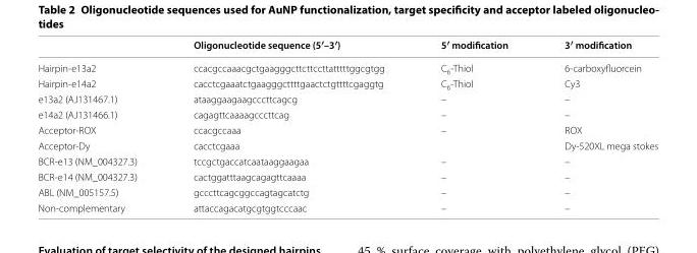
<table><thead><tr><td></td><td>Oligonucleotide sequence (5′–3′)</td><td>5′ modification</td><td>3′ modification</td></tr></thead><tbody><tr><td>Hairpin-e13a2</td><td>ccacgccaaacgctgaagggcttcttccttatttttggcgtgg</td><td>C<sub>6</sub>-Thiol</td><td>6-carboxyfluorcein</td></tr><tr><td>Hairpin-e14a2</td><td>cacctcgaaatctgaagggcttttgaactctgttttcgaggtg</td><td>C<sub>6</sub>-Thiol</td><td>Cy3</td></tr><tr><td>e13a2 (AJ131467.1)</td><td>ataaggaagaagcccttcagcg</td><td>–</td><td>–</td></tr><tr><td>e14a2 (AJ131466.1)</td><td>cagagttcaaaagcccttcag</td><td>–</td><td>–</td></tr><tr><td>Acceptor-ROX</td><td>ccacgccaaa</td><td>–</td><td>ROX</td></tr><tr><td>Acceptor-Dy</td><td>cacctcgaaa</td><td></td><td>Dy-520XL mega stokes</td></tr><tr><td>BCR-e13 (NM_004327.3)</td><td>tccgctgaccatcaataaggaagaa</td><td>–</td><td>–</td></tr><tr><td>BCR-e14 (NM_004327.3)</td><td>cactggatttaagcagagttcaaaa</td><td>–</td><td>–</td></tr><tr><td>ABL (NM_005157.5)</td><td>gcccttcagcggccagtagcatctg</td><td>–</td><td>–</td></tr><tr><td>Non-complementary</td><td>attaccagacatgcgtggtcccaac</td><td>–</td><td>–</td></tr></tbody></table>